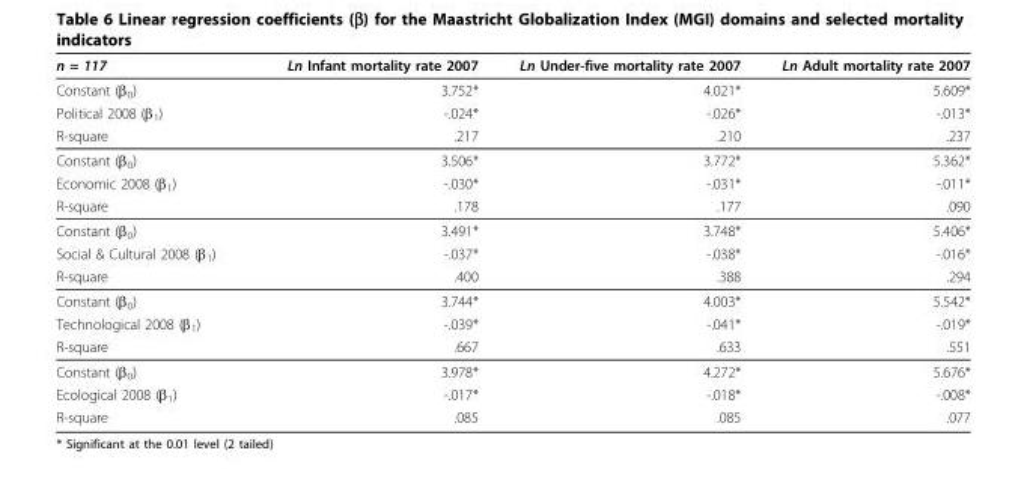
<table><thead><tr><td>n = 117</td><td>Ln Infant mortality rate 2007</td><td>Ln Under-five mortality rate 2007</td><td>Ln Adult mortality rate 2007</td></tr></thead><tbody><tr><td>Constant (β<sub>0</sub>)</td><td>3.752*</td><td>4.021*</td><td>5.609*</td></tr><tr><td>Political 2008 (β<sub>1</sub>)</td><td>-.024*</td><td>-.026*</td><td>-.013*</td></tr><tr><td>R-square</td><td>.217</td><td>.210</td><td>.237</td></tr><tr><td>Constant (β<sub>0</sub>)</td><td>3.506*</td><td>3.772*</td><td>5.362*</td></tr><tr><td>Economic 2008 (β<sub>1</sub>)</td><td>-.030*</td><td>-.031*</td><td>-.011*</td></tr><tr><td>R-square</td><td>.178</td><td>.177</td><td>.090</td></tr><tr><td>Constant (β<sub>0</sub>)</td><td>3.491*</td><td>3.748*</td><td>5.406*</td></tr><tr><td>Social &amp; Cultural 2008 (β<sub>1</sub>)</td><td>-.037*</td><td>-.038*</td><td>-.016*</td></tr><tr><td>R-square</td><td>.400</td><td>.388</td><td>.294</td></tr><tr><td>Constant (β<sub>0</sub>)</td><td>3.744*</td><td>4.003*</td><td>5.542*</td></tr><tr><td>Technological 2008 (β<sub>1</sub>)</td><td>-.039*</td><td>-.041*</td><td>-.019*</td></tr><tr><td>R-square</td><td>.667</td><td>.633</td><td>.551</td></tr><tr><td>Constant (β<sub>0</sub>)</td><td>3.978*</td><td>4.272*</td><td>5.676*</td></tr><tr><td>Ecological 2008 (β<sub>1</sub>)</td><td>-.017*</td><td>-.018*</td><td>-.008*</td></tr><tr><td>R-square</td><td>.085</td><td>.085</td><td>.077</td></tr></tbody></table>